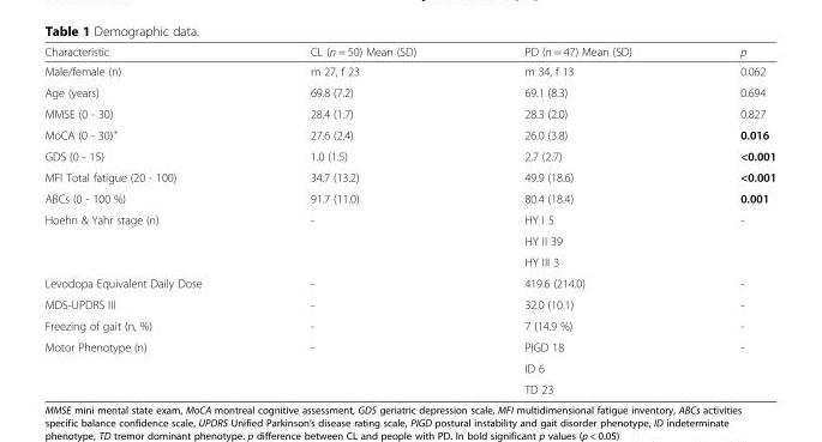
<table><thead><tr><td>Characteristic</td><td>CL (n = 50) Mean (SD)</td><td>PD (n = 47) Mean (SD)</td><td>p</td></tr></thead><tbody><tr><td>Male/female (n)</td><td>m 27, f 23</td><td>m 34, f 13</td><td>0.062</td></tr><tr><td>Age (years)</td><td>69.8 (7.2)</td><td>69.1 (8.3)</td><td>0.694</td></tr><tr><td>MMSE (0 - 30)</td><td>28.4 (1.7)</td><td>28.3 (2.0)</td><td>0.827</td></tr><tr><td>MoCA (0 - 30)<sup>+</sup></td><td>27.6 (2.4)</td><td>26.0 (3.8)</td><td>0.016</td></tr><tr><td>GDS (0 - 15)</td><td>1.0 (1.5)</td><td>2.7 (2.7)</td><td>&lt;0.001</td></tr><tr><td>MFI Total fatigue (20 - 100)</td><td>34.7 (13.2)</td><td>49.9 (18.6)</td><td>&lt;0.001</td></tr><tr><td>ABCs (0 - 100 %)</td><td>91.7 (11.0)</td><td>80.4 (18.4)</td><td>0.001</td></tr><tr><td rowspan="3">Hoehn &amp; Yahr stage (n)</td><td rowspan="3">-</td><td>HY I 5</td><td rowspan="3">-</td></tr><tr><td>HY II 39</td></tr><tr><td>HY III 3</td></tr><tr><td>Levodopa Equivalent Daily Dose</td><td>-</td><td>419.6 (214.0)</td><td>-</td></tr><tr><td>MDS-UPDRS III</td><td>-</td><td>32.0 (10.1)</td><td>-</td></tr><tr><td>Freezing of gait (n, %)</td><td>-</td><td>7 (14.9 %)</td><td>-</td></tr><tr><td rowspan="3">Motor Phenotype (n)</td><td rowspan="3">-</td><td>PIGD 18</td><td rowspan="3">-</td></tr><tr><td>ID 6</td></tr><tr><td>TD 23</td></tr></tbody></table>